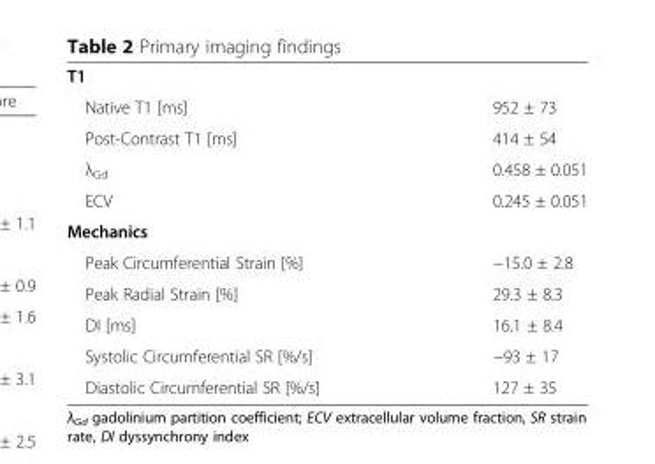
<table><tbody><tr><td colspan="2">T1</td></tr><tr><td>Native T1 [ms]</td><td>952 ± 73</td></tr><tr><td>Post-Contrast T1 [ms]</td><td>414 ± 54</td></tr><tr><td>λ<sub>Gd</sub></td><td>0.458 ± 0.051</td></tr><tr><td>ECV</td><td>0.245 ± 0.051</td></tr><tr><td colspan="2">Mechanics</td></tr><tr><td>Peak Circumferential Strain [%]</td><td>−15.0 ± 2.8</td></tr><tr><td>Peak Radial Strain [%]</td><td>29.3 ± 8.3</td></tr><tr><td>DI [ms]</td><td>16.1 ± 8.4</td></tr><tr><td>Systolic Circumferential SR [%/s]</td><td>−93 ± 17</td></tr><tr><td>Diastolic Circumferential SR [%/s]</td><td>127 ± 35</td></tr></tbody></table>